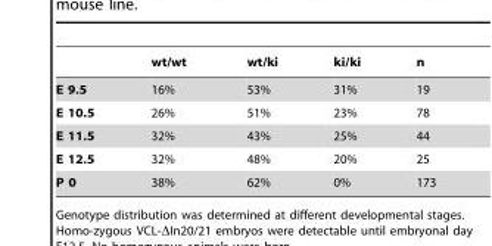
<table><thead><tr><td></td><td>wt/wt</td><td>wt/ki</td><td>ki/ki</td><td>n</td></tr></thead><tbody><tr><td>E 9.5</td><td>16%</td><td>53%</td><td>31%</td><td>19</td></tr><tr><td>E 10.5</td><td>26%</td><td>51%</td><td>23%</td><td>78</td></tr><tr><td>E 11.5</td><td>32%</td><td>43%</td><td>25%</td><td>44</td></tr><tr><td>E 12.5</td><td>32%</td><td>48%</td><td>20%</td><td>25</td></tr><tr><td>P 0</td><td>38%</td><td>62%</td><td>0%</td><td>173</td></tr></tbody></table>